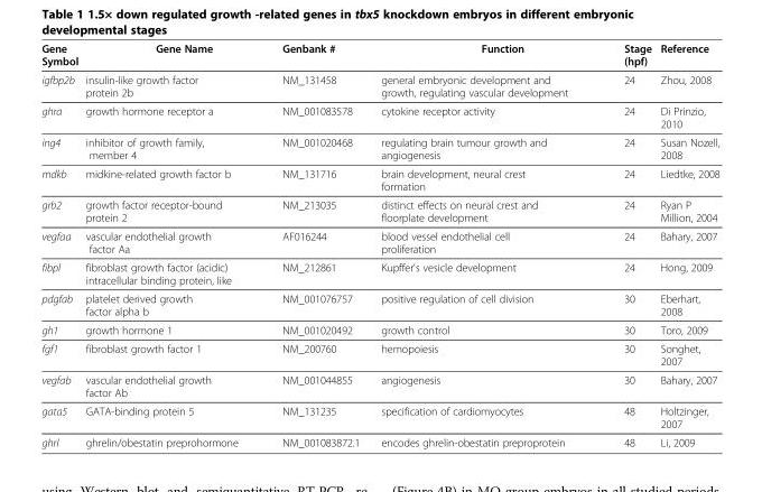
<table><thead><tr><td>Gene Symbol</td><td>Gene Name</td><td>Genbank #</td><td>Function</td><td>Stage (hpf)</td><td>Reference</td></tr></thead><tbody><tr><td>igfbp2b</td><td>insulin-like growth factor protein 2b</td><td>NM_131458</td><td>general embryonic development and growth, regulating vascular development</td><td>24</td><td>Zhou, 2008</td></tr><tr><td>ghra</td><td>growth hormone receptor a</td><td>NM_001083578</td><td>cytokine receptor activity</td><td>24</td><td>Di Prinzio, 2010</td></tr><tr><td>ing4</td><td>inhibitor of growth family, member 4</td><td>NM_001020468</td><td>regulating brain tumour growth and angiogenesis</td><td>24</td><td>Susan Nozell, 2008</td></tr><tr><td>mdkb</td><td>midkine-related growth factor b</td><td>NM_131716</td><td>brain development, neural crest formation</td><td>24</td><td>Liedtke, 2008</td></tr><tr><td>grb2</td><td>growth factor receptor-bound protein 2</td><td>NM_213035</td><td>distinct effects on neural crest and floorplate development</td><td>24</td><td>Ryan P Million, 2004</td></tr><tr><td>vegfaa</td><td>vascular endothelial growth factor Aa</td><td>AF016244</td><td>blood vessel endothelial cell proliferation</td><td>24</td><td>Bahary, 2007</td></tr><tr><td>fibpl</td><td>fibroblast growth factor (acidic) intracellular binding protein, like</td><td>NM_212861</td><td>Kupffer&#x27;s vesicle development</td><td>24</td><td>Hong, 2009</td></tr><tr><td>pdgfab</td><td>platelet derived growth factor alpha b</td><td>NM_001076757</td><td>positive regulation of cell division</td><td>30</td><td>Eberhart, 2008</td></tr><tr><td>gh1</td><td>growth hormone 1</td><td>NM_001020492</td><td>growth control</td><td>30</td><td>Toro, 2009</td></tr><tr><td>fgf1</td><td>fibroblast growth factor 1</td><td>NM_200760</td><td>hemopoiesis</td><td>30</td><td>Songhet, 2007</td></tr><tr><td>vegfab</td><td>vascular endothelial growth factor Ab</td><td>NM_001044855</td><td>angiogenesis</td><td>30</td><td>Bahary, 2007</td></tr><tr><td>gata5</td><td>GATA-binding protein 5</td><td>NM_131235</td><td>specification of cardiomyocytes</td><td>48</td><td>Holtzinger, 2007</td></tr><tr><td>ghrl</td><td>ghrelin/obestatin preprohormone</td><td>NM_001083872.1</td><td>encodes ghrelin-obestatin preproprotein</td><td>48</td><td>Li, 2009</td></tr></tbody></table>